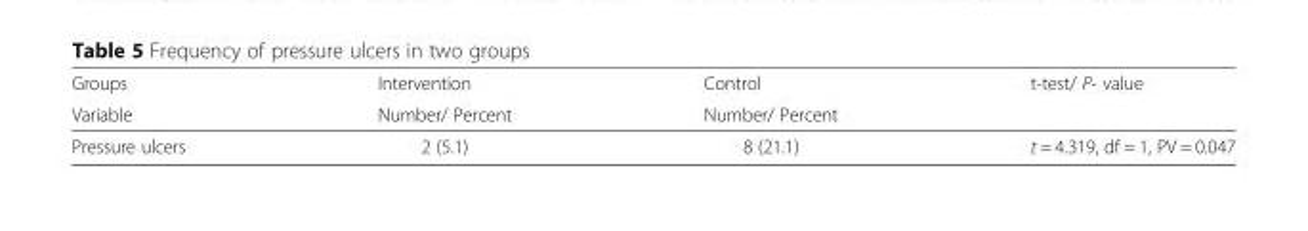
<table><thead><tr><td rowspan="2">Groups Variable</td><td rowspan="2">Intervention Number/ Percent</td><td rowspan="2">Control Number/ Percent</td><td rowspan="2">t-test/ P- value</td></tr><tr></tr></thead><tbody><tr><td>Pressure ulcers</td><td>2 (5.1)</td><td>8 (21.1)</td><td>t = 4.319, df = 1, PV = 0.047</td></tr></tbody></table>